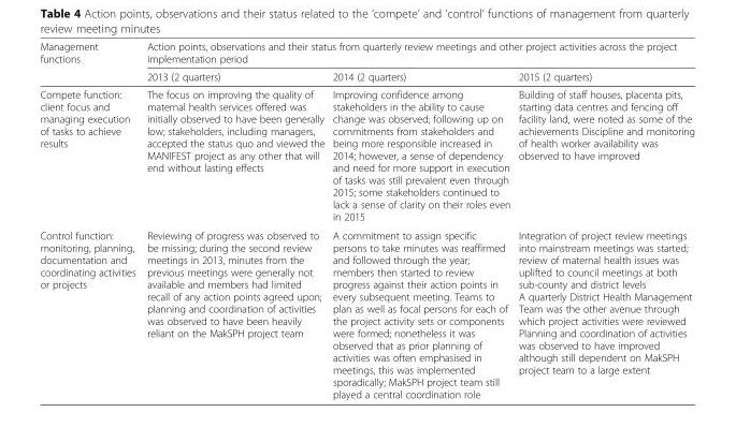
<table><thead><tr><td rowspan="2">Management functions</td><td colspan="3">Action points, observations and their status from quarterly review meetings and other project activities across the project implementation period</td></tr><tr><td>2013 (2 quarters)</td><td>2014 (2 quarters)</td><td>2015 (2 quarters)</td></tr></thead><tbody><tr><td>Compete function: client focus and managing execution of tasks to achieve results</td><td>The focus on improving the quality of maternal health services offered was initially observed to have been generally low; stakeholders, including managers, accepted the status quo and viewed the MANIFEST project as any other that will end without lasting effects</td><td>Improving confidence among stakeholders in the ability to cause change was observed; following up on commitments from stakeholders and being more responsible increased in 2014; however, a sense of dependency and need for more support in execution of tasks was still prevalent even through 2015; some stakeholders continued to lack a sense of clarity on their roles even in 2015</td><td>Building of staff houses, placenta pits, starting data centres and fencing off facility land, were noted as some of the achievements Discipline and monitoring of health worker availability was observed to have improved</td></tr><tr><td>Control function: monitoring, planning, documentation and coordinating activities or projects</td><td>Reviewing of progress was observed to be missing; during the second review meetings in 2013, minutes from the previous meetings were generally not available and members had limited recall of any action points agreed upon; planning and coordination of activities was observed to have been heavily reliant on the MakSPH project team</td><td>A commitment to assign specific persons to take minutes was reaffirmed and followed through the year; members then started to review progress against their action points in every subsequent meeting. Teams to plan as well as focal persons for each of the project activity sets or components were formed; nonetheless it was observed that as prior planning of activities was often emphasised in meetings, this was implemented sporadically; MakSPH project team still played a central coordination role</td><td>Integration of project review meetings into mainstream meetings was started; review of maternal health issues was uplifted to council meetings at both sub-county and district levels A quarterly District Health Management Team was the other avenue through which project activities were reviewed Planning and coordination of activities was observed to have improved although still dependent on MakSPH project team to a large extent</td></tr></tbody></table>